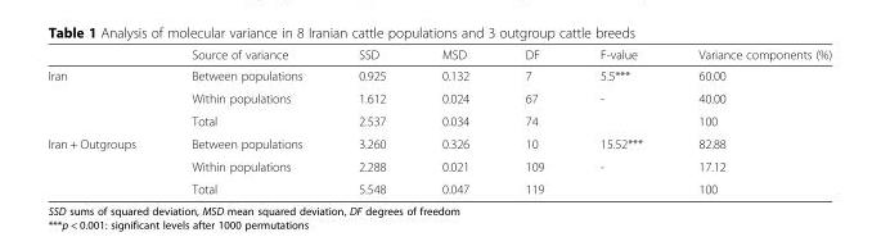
<table><thead><tr><td></td><td>Source of variance</td><td>SSD</td><td>MSD</td><td>DF</td><td>F-value</td><td>Variance components (%)</td></tr></thead><tbody><tr><td rowspan="3">Iran</td><td>Between populations</td><td>0.925</td><td>0.132</td><td>7</td><td>5.5***</td><td>60.00</td></tr><tr><td>Within populations</td><td>1.612</td><td>0.024</td><td>67</td><td>-</td><td>40.00</td></tr><tr><td>Total</td><td>2.537</td><td>0.034</td><td>74</td><td></td><td>100</td></tr><tr><td rowspan="3">Iran + Outgroups</td><td>Between populations</td><td>3.260</td><td>0.326</td><td>10</td><td>15.52***</td><td>82.88</td></tr><tr><td>Within populations</td><td>2.288</td><td>0.021</td><td>109</td><td>-</td><td>17.12</td></tr><tr><td>Total</td><td>5.548</td><td>0.047</td><td>119</td><td></td><td>100</td></tr></tbody></table>